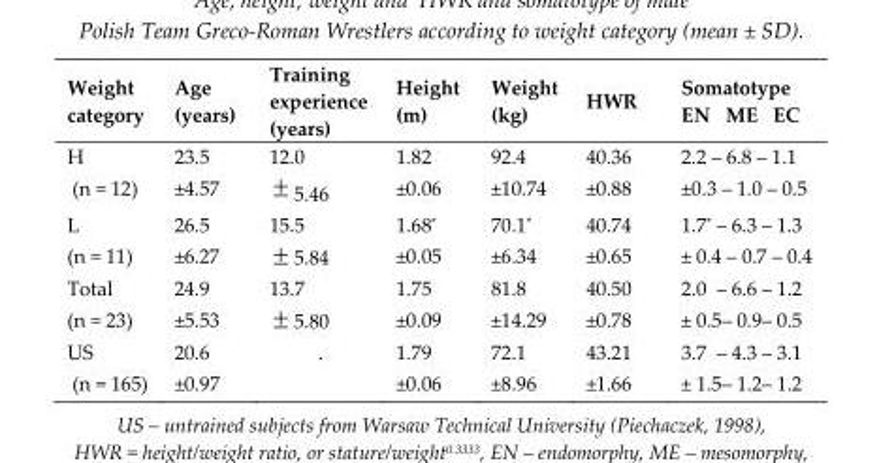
<table><thead><tr><td rowspan="2">Weight category</td><td rowspan="2">Age (years)</td><td rowspan="2">Training experience (years)</td><td rowspan="2">Height (m)</td><td rowspan="2">Weight (kg)</td><td rowspan="2">HWR</td><td colspan="3">Somatotype</td></tr><tr><td>EN</td><td>ME</td><td>EC</td></tr></thead><tbody><tr><td>H (n = 12)</td><td>23.5 ±4.57</td><td>12.0 ± 5.46</td><td>1.82 ±0.06</td><td>92.4 ±10.74</td><td>40.36 ±0.88</td><td colspan="3">2.2 – 6.8 – 1.1 ±0.3 – 1.0 – 0.5</td></tr><tr><td>L (n = 11)</td><td>26.5 ±6.27</td><td>15.5 ± 5.84</td><td>1.68* ±0.05</td><td>70.1* ±6.34</td><td>40.74 ±0.65</td><td colspan="3">1.7* – 6.3 – 1.3 ± 0.4 – 0.7 – 0.4</td></tr><tr><td>Total (n = 23)</td><td>24.9 ±5.53</td><td>13.7 ± 5.80</td><td>1.75 ±0.09</td><td>81.8 ±14.29</td><td>40.50 ±0.78</td><td colspan="3">2.0 – 6.6 – 1.2 ± 0.5– 0.9– 0.5</td></tr><tr><td>US (n = 165)</td><td>20.6 ±0.97</td><td>.</td><td>1.79 ±0.06</td><td>72.1 ±8.96</td><td>43.21 ±1.66</td><td colspan="3">3.7 – 4.3 – 3.1 ± 1.5– 1.2– 1.2</td></tr></tbody></table>